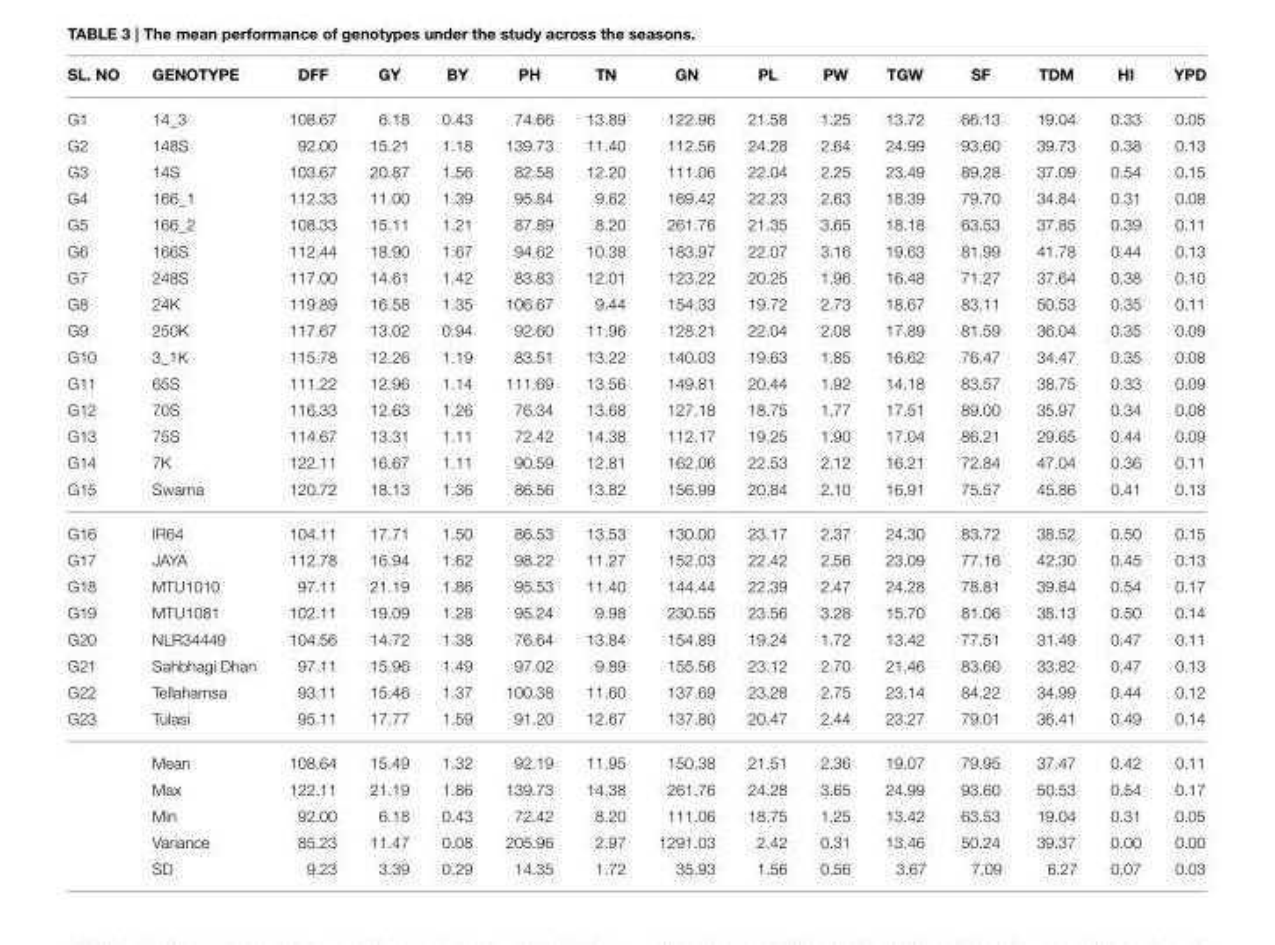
<table><thead><tr><td>SL. NO</td><td>GENOTYPE</td><td>DFF</td><td>GY</td><td>BY</td><td>PH</td><td>TN</td><td>GN</td><td>PL</td><td>PW</td><td>TGW</td><td>SF</td><td>TDM</td><td>HI</td><td>YPD</td></tr></thead><tbody><tr><td>G1</td><td>14_3</td><td>108.67</td><td>6.18</td><td>0.43</td><td>74.66</td><td>13.89</td><td>122.96</td><td>21.58</td><td>1.25</td><td>13.72</td><td>66.13</td><td>19.04</td><td>0.33</td><td>0.05</td></tr><tr><td>G2</td><td>148S</td><td>92.00</td><td>15.21</td><td>1.18</td><td>139.73</td><td>11.40</td><td>112.56</td><td>24.28</td><td>2.64</td><td>24.99</td><td>93.60</td><td>39.73</td><td>0.38</td><td>0.13</td></tr><tr><td>G3</td><td>14S</td><td>103.67</td><td>20.87</td><td>1.56</td><td>82.58</td><td>12.20</td><td>111.06</td><td>22.04</td><td>2.25</td><td>23.49</td><td>89.28</td><td>37.09</td><td>0.54</td><td>0.15</td></tr><tr><td>G4</td><td>166_1</td><td>112.33</td><td>11.00</td><td>1.39</td><td>95.84</td><td>9.62</td><td>169.42</td><td>22.23</td><td>2.63</td><td>18.39</td><td>79.70</td><td>34.84</td><td>0.31</td><td>0.08</td></tr><tr><td>G5</td><td>166_2</td><td>108.33</td><td>15.11</td><td>1.21</td><td>87.89</td><td>8.20</td><td>261.76</td><td>21.35</td><td>3.65</td><td>18.18</td><td>63.53</td><td>37.85</td><td>0.39</td><td>0.11</td></tr><tr><td>G6</td><td>166S</td><td>112.44</td><td>18.90</td><td>1.67</td><td>94.62</td><td>10.38</td><td>183.97</td><td>22.07</td><td>3.16</td><td>19.63</td><td>81.99</td><td>41.78</td><td>0.44</td><td>0.13</td></tr><tr><td>G7</td><td>248S</td><td>117.00</td><td>14.61</td><td>1.42</td><td>83.83</td><td>12.01</td><td>123.22</td><td>20.25</td><td>1.96</td><td>16.48</td><td>71.27</td><td>37.64</td><td>0.38</td><td>0.10</td></tr><tr><td>G8</td><td>24K</td><td>119.89</td><td>16.58</td><td>1.35</td><td>106.67</td><td>9.44</td><td>154.33</td><td>19.72</td><td>2.73</td><td>18.67</td><td>83.11</td><td>50.53</td><td>0.35</td><td>0.11</td></tr><tr><td>G9</td><td>250K</td><td>117.67</td><td>13.02</td><td>0.94</td><td>92.60</td><td>11.96</td><td>128.21</td><td>22.04</td><td>2.08</td><td>17.89</td><td>81.59</td><td>36.04</td><td>0.35</td><td>0.09</td></tr><tr><td>G10</td><td>3_1K</td><td>115.78</td><td>12.26</td><td>1.19</td><td>83.51</td><td>13.22</td><td>140.03</td><td>19.63</td><td>1.85</td><td>16.62</td><td>76.47</td><td>34.47</td><td>0.35</td><td>0.08</td></tr><tr><td>G11</td><td>65S</td><td>111.22</td><td>12.96</td><td>1.14</td><td>111.69</td><td>13.56</td><td>149.81</td><td>20.44</td><td>1.92</td><td>14.18</td><td>83.57</td><td>38.75</td><td>0.33</td><td>0.09</td></tr><tr><td>G12</td><td>70S</td><td>116.33</td><td>12.63</td><td>1.26</td><td>76.34</td><td>13.68</td><td>127.18</td><td>18.75</td><td>1.77</td><td>17.51</td><td>89.00</td><td>35.97</td><td>0.34</td><td>0.08</td></tr><tr><td>G13</td><td>75S</td><td>114.67</td><td>13.31</td><td>1.11</td><td>72.42</td><td>14.38</td><td>112.17</td><td>19.25</td><td>1.90</td><td>17.04</td><td>86.21</td><td>29.65</td><td>0.44</td><td>0.09</td></tr><tr><td>G14</td><td>7K</td><td>122.11</td><td>16.67</td><td>1.11</td><td>90.59</td><td>12.81</td><td>162.06</td><td>22.53</td><td>2.12</td><td>16.21</td><td>72.84</td><td>47.04</td><td>0.36</td><td>0.11</td></tr><tr><td>G15</td><td>Swarna</td><td>120.72</td><td>18.13</td><td>1.36</td><td>86.56</td><td>13.82</td><td>156.99</td><td>20.84</td><td>2.10</td><td>16.91</td><td>75.57</td><td>45.86</td><td>0.41</td><td>0.13</td></tr><tr><td>G16</td><td>IR64</td><td>104.11</td><td>17.71</td><td>1.50</td><td>86.53</td><td>13.53</td><td>130.00</td><td>23.17</td><td>2.37</td><td>24.30</td><td>83.72</td><td>38.52</td><td>0.50</td><td>0.15</td></tr><tr><td>G17</td><td>JAYA</td><td>112.78</td><td>16.94</td><td>1.62</td><td>98.22</td><td>11.27</td><td>152.03</td><td>22.42</td><td>2.56</td><td>23.09</td><td>77.16</td><td>42.30</td><td>0.45</td><td>0.13</td></tr><tr><td>G18</td><td>MTU1010</td><td>97.11</td><td>21.19</td><td>1.86</td><td>95.53</td><td>11.40</td><td>144.44</td><td>22.39</td><td>2.47</td><td>24.28</td><td>78.81</td><td>39.84</td><td>0.54</td><td>0.17</td></tr><tr><td>G19</td><td>MTU1081</td><td>102.11</td><td>19.09</td><td>1.28</td><td>95.24</td><td>9.98</td><td>230.55</td><td>23.56</td><td>3.28</td><td>15.70</td><td>81.06</td><td>38.13</td><td>0.50</td><td>0.14</td></tr><tr><td>G20</td><td>NLR34449</td><td>104.56</td><td>14.72</td><td>1.38</td><td>76.64</td><td>13.84</td><td>154.89</td><td>19.24</td><td>1.72</td><td>13.42</td><td>77.51</td><td>31.49</td><td>0.47</td><td>0.11</td></tr><tr><td>G21</td><td>Sahbhagi Dhan</td><td>97.11</td><td>15.96</td><td>1.49</td><td>97.02</td><td>9.89</td><td>155.56</td><td>23.12</td><td>2.70</td><td>21.46</td><td>83.60</td><td>33.82</td><td>0.47</td><td>0.13</td></tr><tr><td>G22</td><td>Tellahamsa</td><td>93.11</td><td>15.46</td><td>1.37</td><td>100.38</td><td>11.60</td><td>137.69</td><td>23.28</td><td>2.75</td><td>23.14</td><td>84.22</td><td>34.99</td><td>0.44</td><td>0.12</td></tr><tr><td rowspan="6">G23</td><td>Tulasi</td><td>95.11</td><td>17.77</td><td>1.59</td><td>91.20</td><td>12.67</td><td>137.80</td><td>20.47</td><td>2.44</td><td>23.27</td><td>79.01</td><td>36.41</td><td>0.49</td><td>0.14</td></tr><tr><td>Mean</td><td>108.64</td><td>15.49</td><td>1.32</td><td>92.19</td><td>11.95</td><td>150.38</td><td>21.51</td><td>2.36</td><td>19.07</td><td>79.95</td><td>37.47</td><td>0.42</td><td>0.11</td></tr><tr><td>Max</td><td>122.11</td><td>21.19</td><td>1.86</td><td>139.73</td><td>14.38</td><td>261.76</td><td>24.28</td><td>3.65</td><td>24.99</td><td>93.60</td><td>50.53</td><td>0.54</td><td>0.17</td></tr><tr><td>Min</td><td>92.00</td><td>6.18</td><td>0.43</td><td>72.42</td><td>8.20</td><td>111.06</td><td>18.75</td><td>1.25</td><td>13.42</td><td>63.53</td><td>19.04</td><td>0.31</td><td>0.05</td></tr><tr><td>Variance</td><td>85.23</td><td>11.47</td><td>0.08</td><td>205.96</td><td>2.97</td><td>1291.03</td><td>2.42</td><td>0.31</td><td>13.46</td><td>50.24</td><td>39.37</td><td>0.00</td><td>0.00</td></tr><tr><td>SD</td><td>9.23</td><td>3.39</td><td>0.29</td><td>14.35</td><td>1.72</td><td>35.93</td><td>1.56</td><td>0.56</td><td>3.67</td><td>7.09</td><td>6.27</td><td>0.07</td><td>0.03</td></tr></tbody></table>